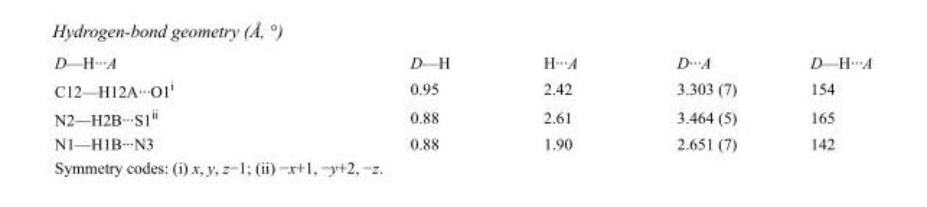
<table><tbody><tr><td>D—H···A</td><td>D—H</td><td>H···A</td><td>D···A</td><td>D—H···A</td></tr><tr><td>C12—H12A···O1<sup>i</sup></td><td>0.95</td><td>2.42</td><td>3.303 (7)</td><td>154</td></tr><tr><td>N2—H2B···S1<sup>ii</sup></td><td>0.88</td><td>2.61</td><td>3.464 (5)</td><td>165</td></tr><tr><td>N1—H1B···N3</td><td>0.88</td><td>1.90</td><td>2.651 (7)</td><td>142</td></tr></tbody></table>